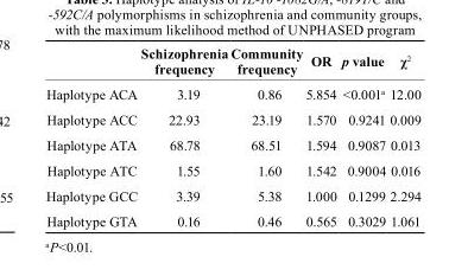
<table><thead><tr><td></td><td>schizophrenia frequency</td><td>community frequency</td><td>or</td><td>p value</td><td>χ<sup>2</sup></td></tr></thead><tbody><tr><td>Haplotype ACA</td><td>3.19</td><td>0.86</td><td>5.854</td><td>&lt;0.001<sup>a</sup></td><td>12.00</td></tr><tr><td>Haplotype ACC</td><td>22.93</td><td>23.19</td><td>1.570</td><td>0.9241</td><td>0.009</td></tr><tr><td>Haplotype ATA</td><td>68.78</td><td>68.51</td><td>1.594</td><td>0.9087</td><td>0.013</td></tr><tr><td>Haplotype ATC</td><td>1.55</td><td>1.60</td><td>1.542</td><td>0.9004</td><td>0.016</td></tr><tr><td>Haplotype GCC</td><td>3.39</td><td>5.38</td><td>1.000</td><td>0.1299</td><td>2.294</td></tr><tr><td>Haplotype GTA</td><td>0.16</td><td>0.46</td><td>0.565</td><td>0.3029</td><td>1.061</td></tr></tbody></table>